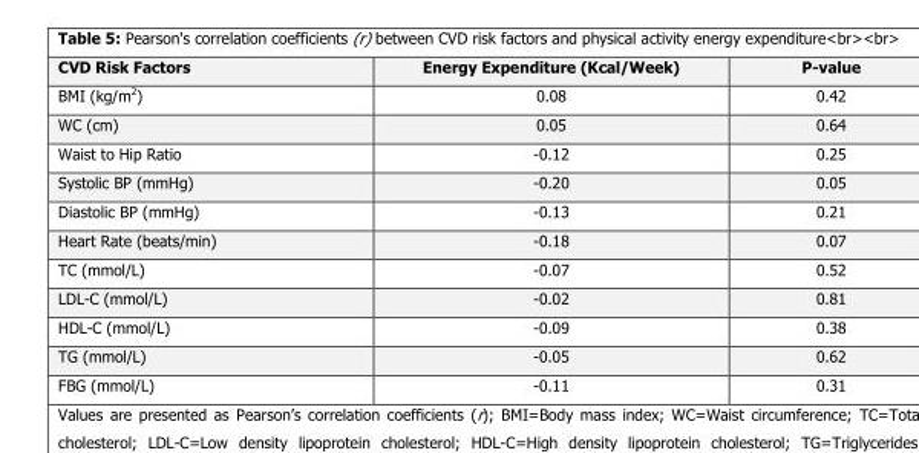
<table><thead><tr><td>CVD Risk Factors</td><td>Energy Expenditure (Kcal/Week)</td><td>P-value</td></tr></thead><tbody><tr><td>BMI (kg/m<sup>2</sup>)</td><td>0.08</td><td>0.42</td></tr><tr><td>WC (cm)</td><td>0.05</td><td>0.64</td></tr><tr><td>Waist to Hip Ratio</td><td>-0.12</td><td>0.25</td></tr><tr><td>Systolic BP (mmHg)</td><td>-0.20</td><td>0.05</td></tr><tr><td>Diastolic BP (mmHg)</td><td>-0.13</td><td>0.21</td></tr><tr><td>Heart Rate (beats/min)</td><td>-0.18</td><td>0.07</td></tr><tr><td>TC (mmol/L)</td><td>-0.07</td><td>0.52</td></tr><tr><td>LDL-C (mmol/L)</td><td>-0.02</td><td>0.81</td></tr><tr><td>HDL-C (mmol/L)</td><td>-0.09</td><td>0.38</td></tr><tr><td>TG (mmol/L)</td><td>-0.05</td><td>0.62</td></tr><tr><td>FBG (mmol/L)</td><td>-0.11</td><td>0.31</td></tr></tbody></table>